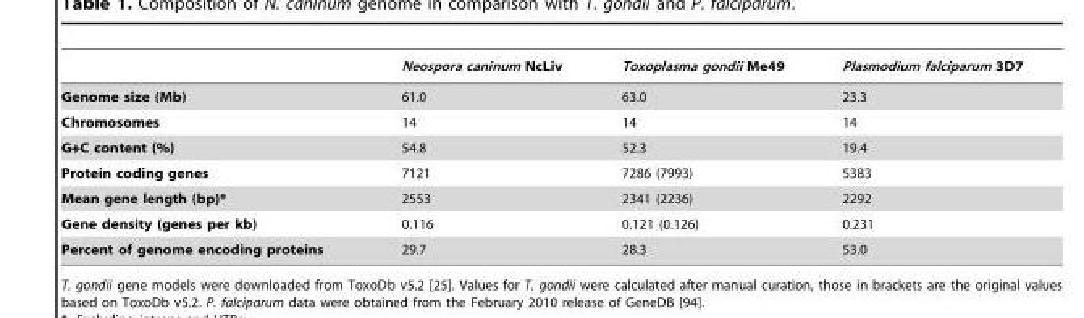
<table><thead><tr><td></td><td>Neospora caninum NcLiv</td><td>Toxoplasma gondii Me49</td><td>Plasmodium falciparum 3D7</td></tr></thead><tbody><tr><td>Genome size (Mb)</td><td>61.0</td><td>63.0</td><td>23.3</td></tr><tr><td>Chromosomes</td><td>14</td><td>14</td><td>14</td></tr><tr><td>G+C content (%)</td><td>54.8</td><td>52.3</td><td>19.4</td></tr><tr><td>Protein coding genes</td><td>7121</td><td>7286 (7993)</td><td>5383</td></tr><tr><td>Mean gene length (bp)*</td><td>2553</td><td>2341 (2236)</td><td>2292</td></tr><tr><td>Gene density (genes per kb)</td><td>0.116</td><td>0.121 (0.126)</td><td>0.231</td></tr><tr><td>Percent of genome encoding proteins</td><td>29.7</td><td>28.3</td><td>53.0</td></tr></tbody></table>